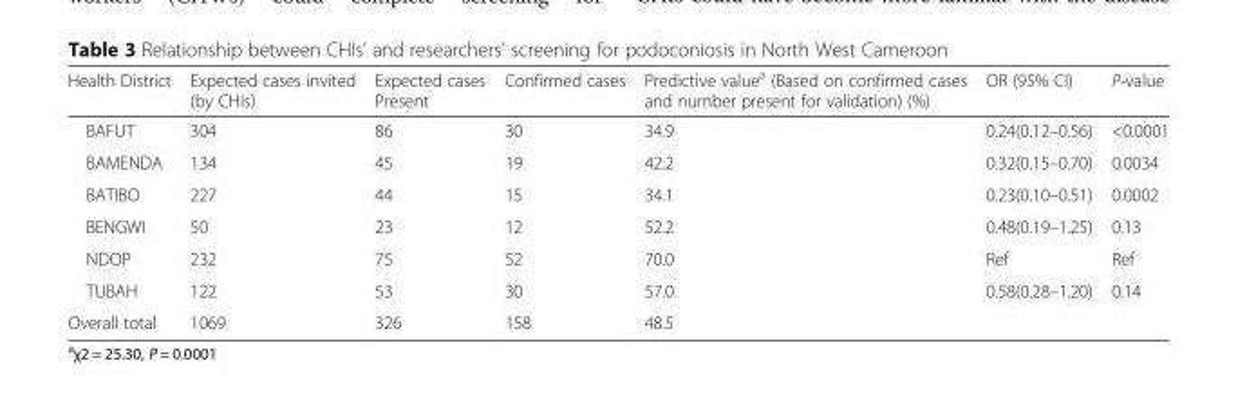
<table><thead><tr><td>Health District</td><td>Expected cases invited (by CHIs)</td><td>Expected cases Present</td><td>Confirmed cases</td><td>Predictive value<sup>a</sup> (Based on confirmed cases and number present for validation) (%)</td><td>OR (95% CI)</td><td>P-value</td></tr></thead><tbody><tr><td>BAFUT</td><td>304</td><td>86</td><td>30</td><td>34.9</td><td>0.24(0.12–0.56)</td><td>&lt;0.0001</td></tr><tr><td>BAMENDA</td><td>134</td><td>45</td><td>19</td><td>42.2</td><td>0.32(0.15–0.70)</td><td>0.0034</td></tr><tr><td>BATIBO</td><td>227</td><td>44</td><td>15</td><td>34.1</td><td>0.23(0.10–0.51)</td><td>0.0002</td></tr><tr><td>BENGWI</td><td>50</td><td>23</td><td>12</td><td>52.2</td><td>0.48(0.19–1.25)</td><td>0.13</td></tr><tr><td>NDOP</td><td>232</td><td>75</td><td>52</td><td>70.0</td><td>Ref</td><td>Ref</td></tr><tr><td>TUBAH</td><td>122</td><td>53</td><td>30</td><td>57.0</td><td>0.58(0.28–1.20)</td><td>0.14</td></tr><tr><td>Overall total</td><td>1069</td><td>326</td><td>158</td><td>48.5</td><td></td><td></td></tr></tbody></table>